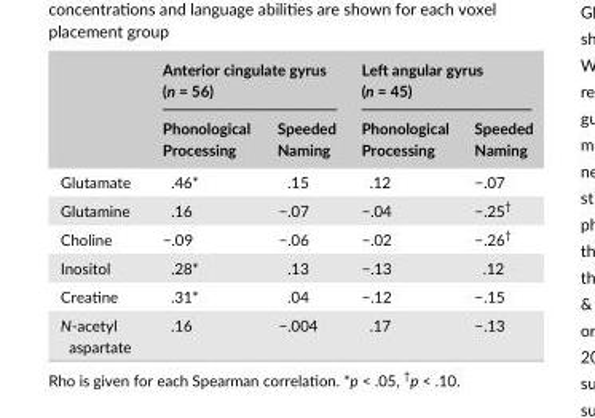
<table><thead><tr><td rowspan="2"></td><td colspan="2">Anterior cingulate gyrus (n = 56)</td><td colspan="2">Left angular gyrus (n = 45)</td></tr><tr><td>Phonological Processing</td><td>Speeded Naming</td><td>Phonological Processing</td><td>Speeded Naming</td></tr></thead><tbody><tr><td>Glutamate</td><td>.46*</td><td>.15</td><td>.12</td><td>−.07</td></tr><tr><td>Glutamine</td><td>.16</td><td>−.07</td><td>−.04</td><td>−.25†</td></tr><tr><td>Choline</td><td>−.09</td><td>−.06</td><td>−.02</td><td>−.26†</td></tr><tr><td>Inositol</td><td>.28*</td><td>.13</td><td>−.13</td><td>.12</td></tr><tr><td>Creatine</td><td>.31*</td><td>.04</td><td>−.12</td><td>−.15</td></tr><tr><td>N- acetyl aspartate</td><td>.16</td><td>−.004</td><td>.17</td><td>−.13</td></tr></tbody></table>